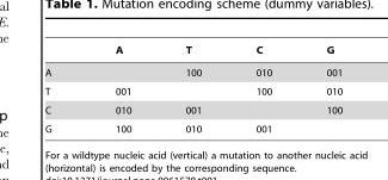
<table><thead><tr><td></td><td>A</td><td>T</td><td>C</td><td>G</td></tr></thead><tbody><tr><td>A</td><td></td><td>100</td><td>010</td><td>001</td></tr><tr><td>T</td><td>001</td><td></td><td>100</td><td>010</td></tr><tr><td>C</td><td>010</td><td>001</td><td></td><td>100</td></tr><tr><td>G</td><td>100</td><td>010</td><td>001</td><td></td></tr></tbody></table>